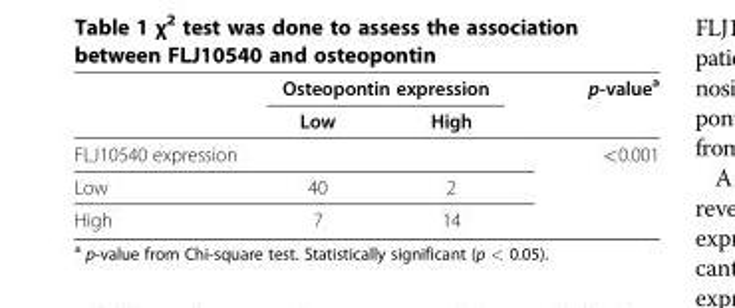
<table><thead><tr><td rowspan="2"></td><td colspan="2">Osteopontin expression</td><td rowspan="2">p-value<sup>a</sup></td></tr><tr><td>Low</td><td>High</td></tr></thead><tbody><tr><td>FLJ10540 expression</td><td></td><td></td><td>&lt;0.001</td></tr><tr><td>Low</td><td>40</td><td>2</td><td></td></tr><tr><td>High</td><td>7</td><td>14</td><td></td></tr></tbody></table>